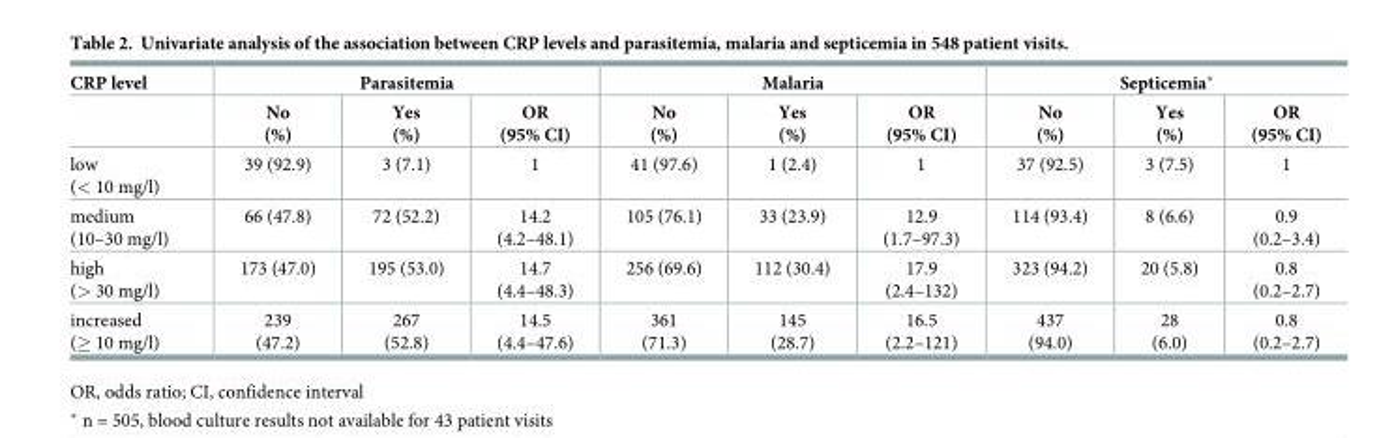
<table><thead><tr><td rowspan="2">CRP level</td><td colspan="3">Parasitemia</td><td colspan="3">Malaria</td><td colspan="3">Septicemia*</td></tr><tr><td>No (%)</td><td>Yes (%)</td><td>OR (95% CI)</td><td>No (%)</td><td>Yes (%)</td><td>OR (95% CI)</td><td>No (%)</td><td>Yes (%)</td><td>OR (95% CI)</td></tr></thead><tbody><tr><td>low (&lt; 10 mg/l)</td><td>39 (92.9)</td><td>3 (7.1)</td><td>1</td><td>41 (97.6)</td><td>1 (2.4)</td><td>1</td><td>37 (92.5)</td><td>3 (7.5)</td><td>1</td></tr><tr><td>medium (10–30 mg/l)</td><td>66 (47.8)</td><td>72 (52.2)</td><td>14.2 (4.2–48.1)</td><td>105 (76.1)</td><td>33 (23.9)</td><td>12.9 (1.7–97.3)</td><td>114 (93.4)</td><td>8 (6.6)</td><td>0.9 (0.2–3.4)</td></tr><tr><td>high (&gt; 30 mg/l)</td><td>173 (47.0)</td><td>195 (53.0)</td><td>14.7 (4.4–48.3)</td><td>256 (69.6)</td><td>112 (30.4)</td><td>17.9 (2.4–132)</td><td>323 (94.2)</td><td>20 (5.8)</td><td>0.8 (0.2–2.7)</td></tr><tr><td>increased (≥ 10 mg/l)</td><td>239 (47.2)</td><td>267 (52.8)</td><td>14.5 (4.4–47.6)</td><td>361 (71.3)</td><td>145 (28.7)</td><td>16.5 (2.2–121)</td><td>437 (94.0)</td><td>28 (6.0)</td><td>0.8 (0.2–2.7)</td></tr></tbody></table>